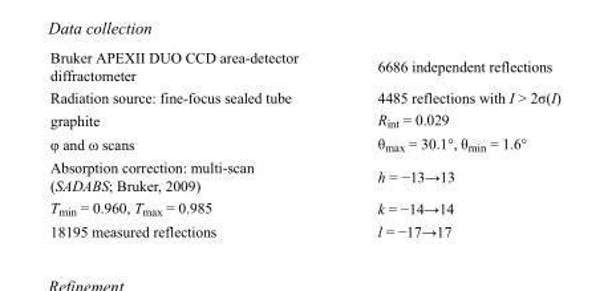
<table><tbody><tr><td>Bruker APEXII DUO CCD area-detector diffractometer</td><td>6686 independent reflections</td></tr><tr><td>Radiation source: fine-focus sealed tube</td><td>4485 reflections with I &gt; 2σ(I)</td></tr><tr><td>graphite</td><td>R<sub>int</sub> = 0.029</td></tr><tr><td>φ and ω scans</td><td>θ<sub>max</sub> = 30.1°, θ<sub>min</sub> = 1.6°</td></tr><tr><td>Absorption correction: multi-scan (SADABS; Bruker, 2009)</td><td>h = −13→13</td></tr><tr><td>T<sub>min</sub> = 0.960, T<sub>max</sub> = 0.985</td><td>k = −14→14</td></tr><tr><td>18195 measured reflections</td><td>l = −17→17</td></tr></tbody></table>